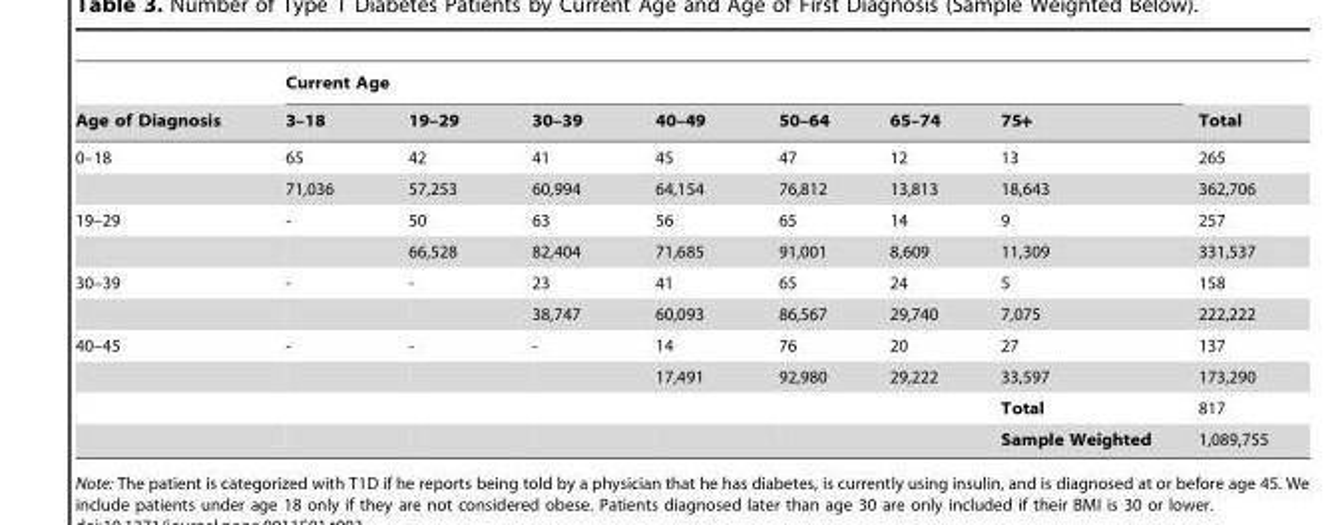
<table><thead><tr><td rowspan="2">Age of Diagnosis</td><td colspan="7">Current Age</td><td rowspan="2">Total</td></tr><tr><td>3–18</td><td>19–29</td><td>30–39</td><td>40–49</td><td>50–64</td><td>65–74</td><td>75+</td></tr></thead><tbody><tr><td rowspan="2">0–18</td><td>65</td><td>42</td><td>41</td><td>45</td><td>47</td><td>12</td><td>13</td><td>265</td></tr><tr><td>71,036</td><td>57,253</td><td>60,994</td><td>64,154</td><td>76,812</td><td>13,813</td><td>18,643</td><td>362,706</td></tr><tr><td rowspan="2">19–29</td><td>-</td><td>50</td><td>63</td><td>56</td><td>65</td><td>14</td><td>9</td><td>257</td></tr><tr><td></td><td>66,528</td><td>82,404</td><td>71,685</td><td>91,001</td><td>8,609</td><td>11,309</td><td>331,537</td></tr><tr><td rowspan="2">30–39</td><td>-</td><td>-</td><td>23</td><td>41</td><td>65</td><td>24</td><td>5</td><td>158</td></tr><tr><td></td><td></td><td>38,747</td><td>60,093</td><td>86,567</td><td>29,740</td><td>7,075</td><td>222,222</td></tr><tr><td rowspan="4">40–45</td><td>-</td><td>-</td><td>-</td><td>14</td><td>76</td><td>20</td><td>27</td><td>137</td></tr><tr><td></td><td></td><td></td><td>17,491</td><td>92,980</td><td>29,222</td><td>33,597</td><td>173,290</td></tr><tr><td></td><td></td><td></td><td></td><td></td><td></td><td>Total</td><td>817</td></tr><tr><td></td><td></td><td></td><td></td><td></td><td></td><td>Sample Weighted</td><td>1,089,755</td></tr></tbody></table>